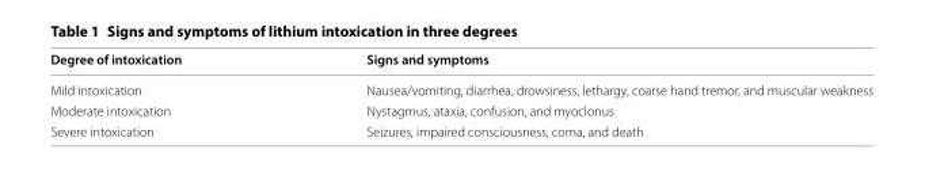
<table><thead><tr><td>Degree of intoxication</td><td>Signs and symptoms</td></tr></thead><tbody><tr><td>Mild intoxication</td><td>Nausea/vomiting, diarrhea, drowsiness, lethargy, coarse hand tremor, and muscular weakness</td></tr><tr><td>Moderate intoxication</td><td>Nystagmus, ataxia, confusion, and myoclonus</td></tr><tr><td>Severe intoxication</td><td>Seizures, impaired consciousness, coma, and death</td></tr></tbody></table>